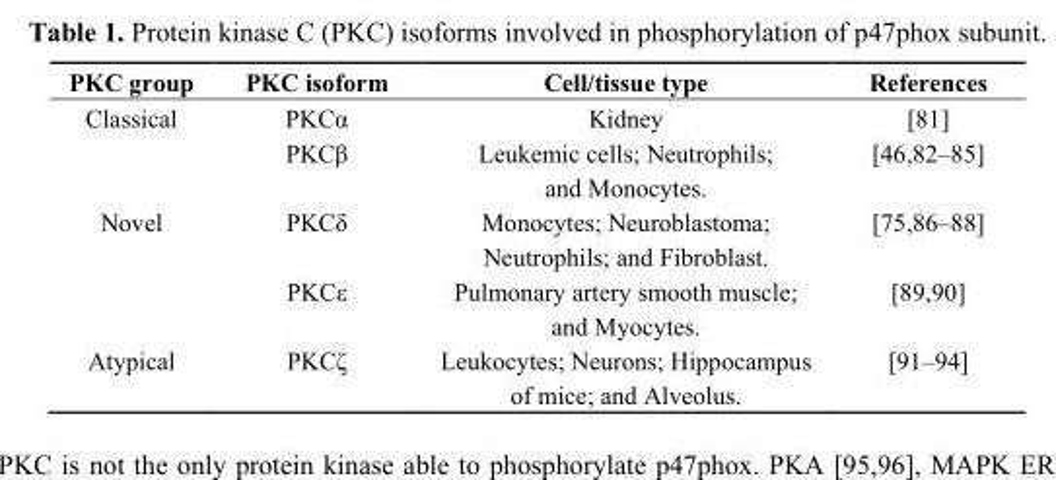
<table><thead><tr><td>PKC group</td><td>PKC isoform</td><td>Cell/tissue type</td><td>References</td></tr></thead><tbody><tr><td rowspan="2">Classical</td><td>PKCα</td><td>Kidney</td><td>[81]</td></tr><tr><td>PKCβ</td><td>Leukemic cells; Neutrophils; and Monocytes.</td><td>[46,82–85]</td></tr><tr><td rowspan="2">Novel</td><td>PKCδ</td><td>Monocytes; Neuroblastoma; Neutrophils; and Fibroblast.</td><td>[75,86–88]</td></tr><tr><td>PKCε</td><td>Pulmonary artery smooth muscle; and Myocytes.</td><td>[89,90]</td></tr><tr><td>Atypical</td><td>PKCζ</td><td>Leukocytes; Neurons; Hippocampus of mice; and Alveolus.</td><td>[91–94]</td></tr></tbody></table>